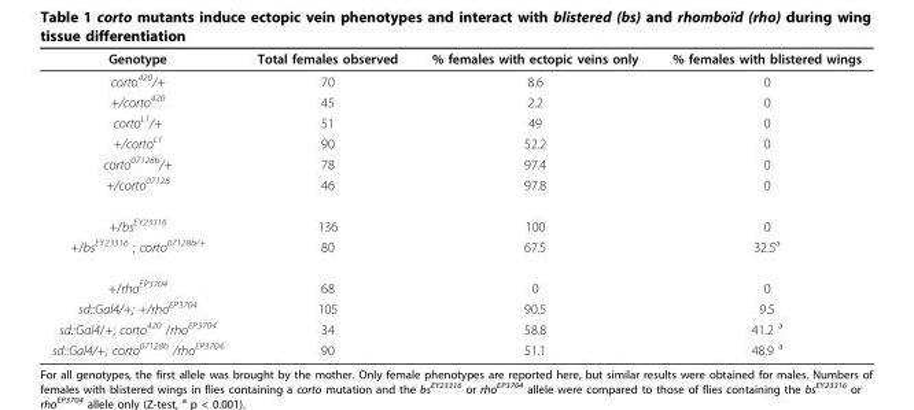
<table><thead><tr><td>Genotype</td><td>Total females observed</td><td>% females with ectopic veins only</td><td>% females with blistered wings</td></tr></thead><tbody><tr><td>corto<sup>420</sup>/+</td><td>70</td><td>8.6</td><td>0</td></tr><tr><td>+/corto<sup>420</sup></td><td>45</td><td>2.2</td><td>0</td></tr><tr><td>corto<sup>L1</sup>/+</td><td>51</td><td>49</td><td>0</td></tr><tr><td>+/corto<sup>L1</sup></td><td>90</td><td>52.2</td><td>0</td></tr><tr><td>corto<sup>07128b</sup>/+</td><td>78</td><td>97.4</td><td>0</td></tr><tr><td>+/corto<sup>07128</sup></td><td>46</td><td>97.8</td><td>0</td></tr><tr><td>+/bs<sup>EY23316</sup></td><td>136</td><td>100</td><td>0</td></tr><tr><td>+/bs<sup>EY23316</sup> ; corto<sup>07128b/+</sup></td><td>80</td><td>67.5</td><td>32.5<sup>a</sup></td></tr><tr><td>+/rho<sup>EP3704</sup></td><td>68</td><td>0</td><td>0</td></tr><tr><td>sd::Gal4/+; +/rho<sup>EP3704</sup></td><td>105</td><td>90.5</td><td>9.5</td></tr><tr><td>sd::Gal4/+; corto<sup>420</sup> /rho<sup>EP3704</sup></td><td>34</td><td>58.8</td><td>41.2 <sup>a</sup></td></tr><tr><td>sd::Gal4/+; corto<sup>07128b</sup> /rho<sup>EP3704</sup></td><td>90</td><td>51.1</td><td>48.9 <sup>a</sup></td></tr></tbody></table>